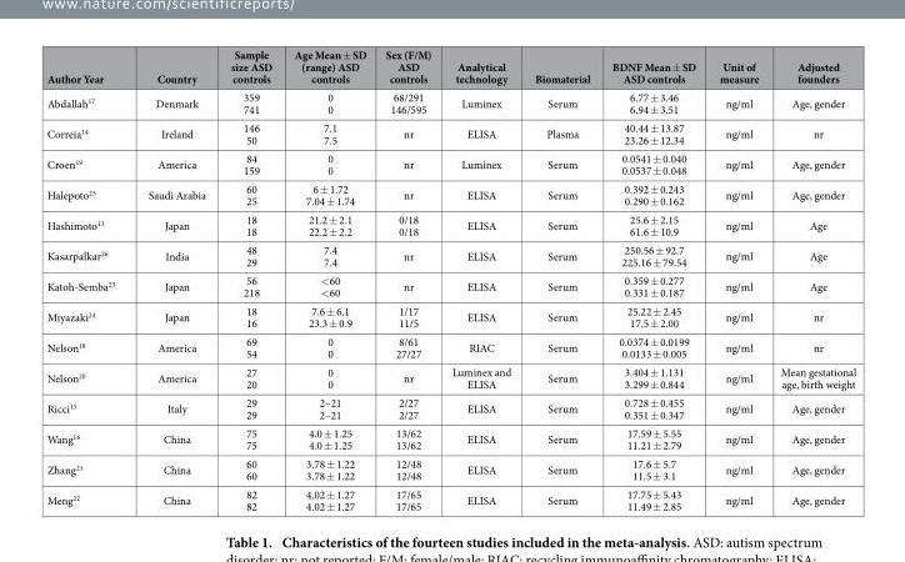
<table><thead><tr><td>Author Year</td><td>Country</td><td>Sample size ASD controls</td><td>Age Mean ± SD (range) ASD controls</td><td>Sex (F/M) ASD controls</td><td>Analytical technology</td><td>Biomaterial</td><td>BDNF Mean ± SD ASD controls</td><td>Unit of measure</td><td>Adjusted founders</td></tr></thead><tbody><tr><td>Abdallah<sup>17</sup></td><td>Denmark</td><td>359 741</td><td>0 0</td><td>68/291 146/595</td><td>Luminex</td><td>Serum</td><td>6.77 ± 3.46 6.94 ± 3.51</td><td>ng/ml</td><td>Age, gender</td></tr><tr><td>Correia<sup>14</sup></td><td>Ireland</td><td>146 50</td><td>7.1 7.5</td><td>nr</td><td>ELISA</td><td>Plasma</td><td>40.44 ± 13.87 23.26 ± 12.34</td><td>ng/ml</td><td>nr</td></tr><tr><td>Croen<sup>19</sup></td><td>America</td><td>84 159</td><td>0 0</td><td>nr</td><td>Luminex</td><td>Serum</td><td>0.0541 ± 0.040 0.0537 ± 0.048</td><td>ng/ml</td><td>Age, gender</td></tr><tr><td>Halepoto<sup>25</sup></td><td>Saudi Arabia</td><td>60 25</td><td>6 ± 1.72 7.04 ± 1.74</td><td>nr</td><td>ELISA</td><td>Serum</td><td>0.392 ± 0.243 0.290 ± 0.162</td><td>ng/ml</td><td>Age, gender</td></tr><tr><td>Hashimoto<sup>13</sup></td><td>Japan</td><td>18 18</td><td>21.2 ± 2.1 22.2 ± 2.2</td><td>0/18 0/18</td><td>ELISA</td><td>Serum</td><td>25.6 ± 2.15 61.6 ± 10.9</td><td>ng/ml</td><td>Age</td></tr><tr><td>Kasarpalkar<sup>26</sup></td><td>India</td><td>48 29</td><td>7.4 7.4</td><td>nr</td><td>ELISA</td><td>Serum</td><td>250.56 ± 92.7 225.16 ± 79.54</td><td>ng/ml</td><td>Age</td></tr><tr><td>Katoh-Semba<sup>23</sup></td><td>Japan</td><td>56 218</td><td>&lt; 60 &lt; 60</td><td>nr</td><td>ELISA</td><td>Serum</td><td>0.359 ± 0.277 0.331 ± 0.187</td><td>ng/ml</td><td>Age</td></tr><tr><td>Miyazaki<sup>24</sup></td><td>Japan</td><td>18 16</td><td>7.6 ± 6.1 23.3 ± 0.9</td><td>1/17 11/5</td><td>ELISA</td><td>Serum</td><td>25.22 ± 2.45 17.5 ± 2.00</td><td>ng/ml</td><td>nr</td></tr><tr><td>Nelson<sup>18</sup></td><td>America</td><td>69 54</td><td>0 0</td><td>8/61 27/27</td><td>RIAC</td><td>Serum</td><td>0.0374 ± 0.0199 0.0133 ± 0.005</td><td>ng/ml</td><td>nr</td></tr><tr><td>Nelson<sup>20</sup></td><td>America</td><td>27 20</td><td>0 0</td><td>nr</td><td>Luminex and ELISA</td><td>Serum</td><td>3.404 ± 1.131 3.299 ± 0.844</td><td>ng/ml</td><td>Mean gestational age, birth weight</td></tr><tr><td>Ricci<sup>15</sup></td><td>Italy</td><td>29 29</td><td>2–21 2–21</td><td>2/27 2/27</td><td>ELISA</td><td>Serum</td><td>0.728 ± 0.455 0.351 ± 0.347</td><td>ng/ml</td><td>Age, gender</td></tr><tr><td>Wang<sup>16</sup></td><td>China</td><td>75 75</td><td>4.0 ± 1.25 4.0 ± 1.25</td><td>13/62 13/62</td><td>ELISA</td><td>Serum</td><td>17.59 ± 5.55 11.21 ± 2.79</td><td>ng/ml</td><td>Age, gender</td></tr><tr><td>Zhang<sup>21</sup></td><td>China</td><td>60 60</td><td>3.78 ± 1.22 3.78 ± 1.22</td><td>12/48 12/48</td><td>ELISA</td><td>Serum</td><td>17.6 ± 5.7 11.5 ± 3.1</td><td>ng/ml</td><td>Age, gender</td></tr><tr><td>Meng<sup>22</sup></td><td>China</td><td>82 82</td><td>4.02 ± 1.27 4.02 ± 1.27</td><td>17/65 17/65</td><td>ELISA</td><td>Serum</td><td>17.75 ± 5.43 11.49 ± 2.85</td><td>ng/ml</td><td>Age, gender</td></tr></tbody></table>